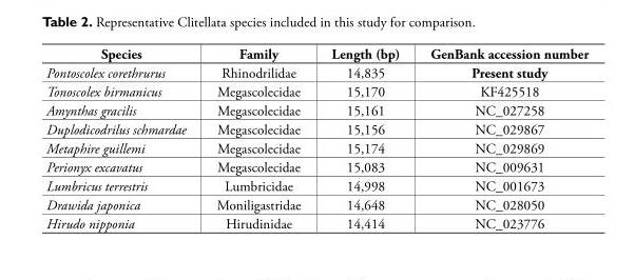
<table><tbody><tr><td>Species</td><td>Family</td><td>Length (bp)</td><td>GenBank accession number</td></tr><tr><td>Pontoscolex corethrurus</td><td>Rhinodrilidae</td><td>14,835</td><td>Present study</td></tr><tr><td>Tonoscolex birmanicus</td><td>Megascolecidae</td><td>15,170</td><td>KF425518</td></tr><tr><td>Amynthas gracilis</td><td>Megascolecidae</td><td>15,161</td><td>NC_027258</td></tr><tr><td>Duplodicodrilus schmardae</td><td>Megascolecidae</td><td>15,156</td><td>NC_029867</td></tr><tr><td>Metaphire guillemi</td><td>Megascolecidae</td><td>15,174</td><td>NC_029869</td></tr><tr><td>Perionyx excavatus</td><td>Megascolecidae</td><td>15,083</td><td>NC_009631</td></tr><tr><td>Lumbricus terrestris</td><td>Lumbricidae</td><td>14,998</td><td>NC_001673</td></tr><tr><td>Drawida japonica</td><td>Moniligastridae</td><td>14,648</td><td>NC_028050</td></tr><tr><td>Hirudo nipponia</td><td>Hirudinidae</td><td>14,414</td><td>NC_023776</td></tr></tbody></table>